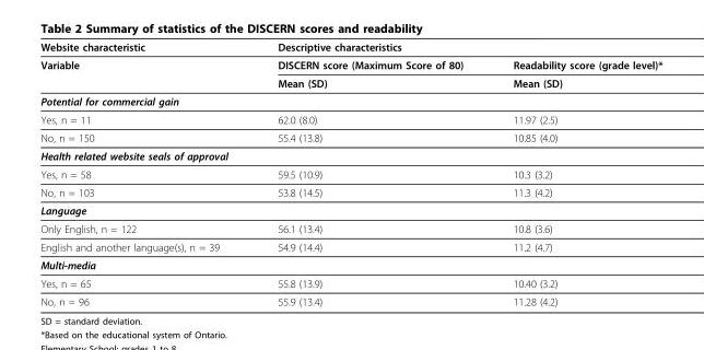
<table><thead><tr><td rowspan="2">Website characteristic Variable</td><td colspan="2">Descriptive characteristics</td></tr><tr><td>DISCERN score (Maximum Score of 80)</td><td>Readability score (grade level)*</td></tr></thead><tbody><tr><td></td><td>Mean (SD)</td><td>Mean (SD)</td></tr><tr><td colspan="3">Potential for commercial gain</td></tr><tr><td>Yes, n = 11</td><td>62.0 (8.0)</td><td>11.97 (2.5)</td></tr><tr><td>No, n = 150</td><td>55.4 (13.8)</td><td>10.85 (4.0)</td></tr><tr><td colspan="3">Health related website seals of approval</td></tr><tr><td>Yes, n = 58</td><td>59.5 (10.9)</td><td>10.3 (3.2)</td></tr><tr><td>No, n = 103</td><td>53.8 (14.5)</td><td>11.3 (4.2)</td></tr><tr><td colspan="3">Language</td></tr><tr><td>Only English, n = 122</td><td>56.1 (13.4)</td><td>10.8 (3.6)</td></tr><tr><td>English and another language(s), n = 39</td><td>54.9 (14.4)</td><td>11.2 (4.7)</td></tr><tr><td colspan="3">Multi-media</td></tr><tr><td>Yes, n = 65</td><td>55.8 (13.9)</td><td>10.40 (3.2)</td></tr><tr><td>No, n = 96</td><td>55.9 (13.4)</td><td>11.28 (4.2)</td></tr></tbody></table>